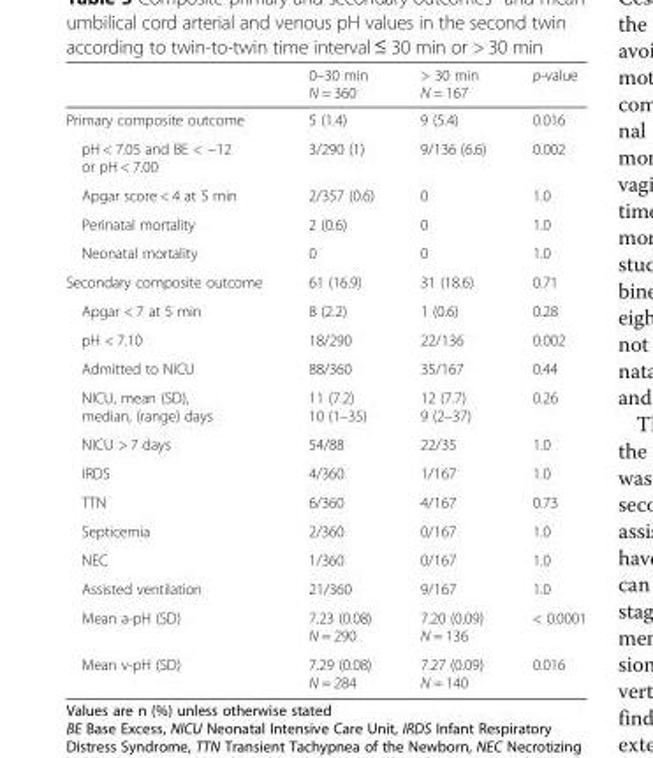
<table><thead><tr><td></td><td>0–30 min N = 360</td><td>&gt; 30 min N = 167</td><td>p-value</td></tr></thead><tbody><tr><td>Primary composite outcome</td><td>5 (1.4)</td><td>9 (5.4)</td><td>0.016</td></tr><tr><td>pH &lt; 7.05 and BE &lt; −12 or pH &lt; 7.00</td><td>3/290 (1)</td><td>9/136 (6.6)</td><td>0.002</td></tr><tr><td>Apgar score &lt; 4 at 5 min</td><td>2/357 (0.6)</td><td>0</td><td>1.0</td></tr><tr><td>Perinatal mortality</td><td>2 (0.6)</td><td>0</td><td>1.0</td></tr><tr><td>Neonatal mortality</td><td>0</td><td>0</td><td>1.0</td></tr><tr><td>Secondary composite outcome</td><td>61 (16.9)</td><td>31 (18.6)</td><td>0.71</td></tr><tr><td>Apgar &lt; 7 at 5 min</td><td>8 (2.2)</td><td>1 (0.6)</td><td>0.28</td></tr><tr><td>pH &lt; 7.10</td><td>18/290</td><td>22/136</td><td>0.002</td></tr><tr><td>Admitted to NICU</td><td>88/360</td><td>35/167</td><td>0.44</td></tr><tr><td>NICU, mean (SD), median, (range) days</td><td>11 (7.2) 10 (1–35)</td><td>12 (7.7) 9 (2–37)</td><td>0.26</td></tr><tr><td>NICU &gt; 7 days</td><td>54/88</td><td>22/35</td><td>1.0</td></tr><tr><td>IRDS</td><td>4/360</td><td>1/167</td><td>1.0</td></tr><tr><td>TTN</td><td>6/360</td><td>4/167</td><td>0.73</td></tr><tr><td>Septicemia</td><td>2/360</td><td>0/167</td><td>1.0</td></tr><tr><td>NEC</td><td>1/360</td><td>0/167</td><td>1.0</td></tr><tr><td>Assisted ventilation</td><td>21/360</td><td>9/167</td><td>1.0</td></tr><tr><td>Mean a-pH (SD)</td><td>7.23 (0.08) N = 290</td><td>7.20 (0.09) N = 136</td><td>&lt; 0.0001</td></tr><tr><td>Mean v-pH (SD)</td><td>7.29 (0.08) N = 284</td><td>7.27 (0.09) N = 140</td><td>0.016</td></tr></tbody></table>